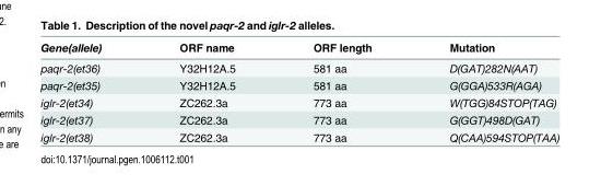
<table><thead><tr><td>Gene(allele)</td><td>ORF name</td><td>ORF length</td><td>Mutation</td></tr></thead><tbody><tr><td>paqr-2(et36)</td><td>Y32H12A.5</td><td>581 aa</td><td>D(GAT)282N(AAT)</td></tr><tr><td>paqr-2(et35)</td><td>Y32H12A.5</td><td>581 aa</td><td>G(GGA)533R(AGA)</td></tr><tr><td>iglr-2(et34)</td><td>ZC262.3a</td><td>773 aa</td><td>W(TGG)84STOP(TAG)</td></tr><tr><td>iglr-2(et37)</td><td>ZC262.3a</td><td>773 aa</td><td>G(GGT)498D(GAT)</td></tr><tr><td>iglr-2(et38)</td><td>ZC262.3a</td><td>773 aa</td><td>Q(CAA)594STOP(TAA)</td></tr></tbody></table>